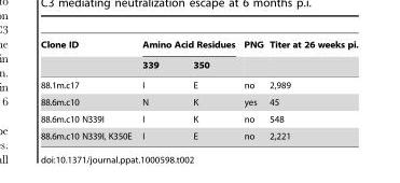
<table><thead><tr><td rowspan="2">Clone ID</td><td colspan="2">Amino Acid Residues</td><td rowspan="2">PNG</td><td rowspan="2">Titer at 26 weeks pi.</td></tr><tr><td>339</td><td>350</td></tr></thead><tbody><tr><td>88.1m.c17</td><td>I</td><td>E</td><td>no</td><td>2,989</td></tr><tr><td>88.6m.c10</td><td>N</td><td>K</td><td>yes</td><td>45</td></tr><tr><td>88.6m.c10 N339I</td><td>I</td><td>K</td><td>no</td><td>548</td></tr><tr><td>88.6m.c10 N339I, K350E</td><td>I</td><td>E</td><td>no</td><td>2,221</td></tr></tbody></table>